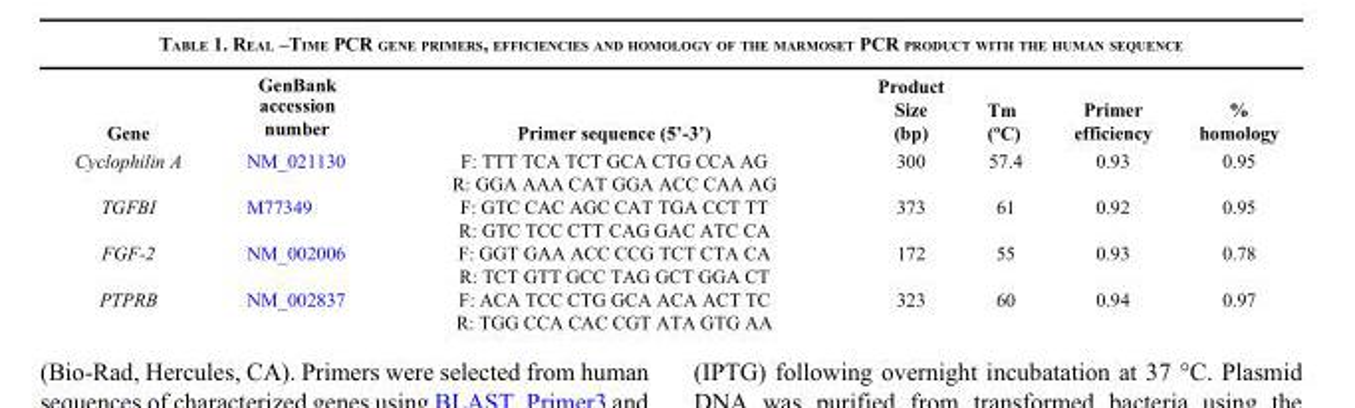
<table><thead><tr><td>Gene</td><td>GenBank accession number</td><td>Primer sequence (5’-3’)</td><td>Product Size (bp)</td><td>Tm (ºC)</td><td>Primer efficiency</td><td>% homology</td></tr></thead><tbody><tr><td rowspan="2">Cyclophilin A</td><td>NM_021130</td><td>F: TTT TCA TCT GCA CTG CCA AG</td><td>300</td><td>57.4</td><td>0.93</td><td>0.95</td></tr><tr><td></td><td>R: GGA AAA CAT GGA ACC CAA AG</td><td></td><td></td><td></td><td></td></tr><tr><td rowspan="2">TGFBI</td><td>M77349</td><td>F: GTC CAC AGC CAT TGA CCT TT</td><td>373</td><td>61</td><td>0.92</td><td>0.95</td></tr><tr><td></td><td>R: GTC TCC CTT CAG GAC ATC CA</td><td></td><td></td><td></td><td></td></tr><tr><td rowspan="2">FGF-2</td><td>NM_002006</td><td>F: GGT GAA ACC CCG TCT CTA CA</td><td>172</td><td>55</td><td>0.93</td><td>0.78</td></tr><tr><td></td><td>R: TCT GTT GCC TAG GCT GGA CT</td><td></td><td></td><td></td><td></td></tr><tr><td rowspan="2">PTPRB</td><td>NM_002837</td><td>F: ACA TCC CTG GCA ACA ACT TC</td><td>323</td><td>60</td><td>0.94</td><td>0.97</td></tr><tr><td></td><td>R: TGG CCA CAC CGT ATA GTG AA</td><td></td><td></td><td></td><td></td></tr></tbody></table>